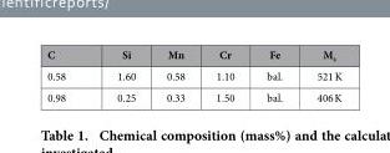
<table><thead><tr><td>C</td><td>Si</td><td>Mn</td><td>Cr</td><td>Fe</td><td>M<sub>s</sub></td></tr></thead><tbody><tr><td>0.58</td><td>1.60</td><td>0.58</td><td>1.10</td><td>bal.</td><td>521 K</td></tr><tr><td>0.98</td><td>0.25</td><td>0.33</td><td>1.50</td><td>bal.</td><td>406 K</td></tr></tbody></table>